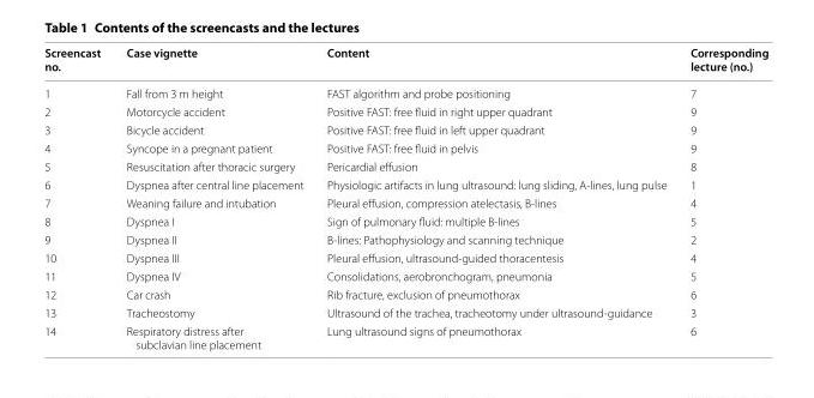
<table><thead><tr><td>Screencast no.</td><td>Case vignette</td><td>Content</td><td>Corresponding lecture (no.)</td></tr></thead><tbody><tr><td>1</td><td>Fall from 3 m height</td><td>FAST algorithm and probe positioning</td><td>7</td></tr><tr><td>2</td><td>Motorcycle accident</td><td>Positive FAST: free fluid in right upper quadrant</td><td>9</td></tr><tr><td>3</td><td>Bicycle accident</td><td>Positive FAST: free fluid in left upper quadrant</td><td>9</td></tr><tr><td>4</td><td>Syncope in a pregnant patient</td><td>Positive FAST: free fluid in pelvis</td><td>9</td></tr><tr><td>5</td><td>Resuscitation after thoracic surgery</td><td>Pericardial effusion</td><td>8</td></tr><tr><td>6</td><td>Dyspnea after central line placement</td><td>Physiologic artifacts in lung ultrasound: lung sliding, A-lines, lung pulse</td><td>1</td></tr><tr><td>7</td><td>Weaning failure and intubation</td><td>Pleural effusion, compression atelectasis, B-lines</td><td>4</td></tr><tr><td>8</td><td>Dyspnea I</td><td>Sign of pulmonary fluid: multiple B-lines</td><td>5</td></tr><tr><td>9</td><td>Dyspnea II</td><td>B-lines: Pathophysiology and scanning technique</td><td>2</td></tr><tr><td>10</td><td>Dyspnea III</td><td>Pleural effusion, ultrasound-guided thoracentesis</td><td>4</td></tr><tr><td>11</td><td>Dyspnea IV</td><td>Consolidations, aerobronchogram, pneumonia</td><td>5</td></tr><tr><td>12</td><td>Car crash</td><td>Rib fracture, exclusion of pneumothorax</td><td>6</td></tr><tr><td>13</td><td>Tracheostomy</td><td>Ultrasound of the trachea, tracheotomy under ultrasound-guidance</td><td>3</td></tr><tr><td>14</td><td>Respiratory distress after subclavian line placement</td><td>Lung ultrasound signs of pneumothorax</td><td>6</td></tr></tbody></table>